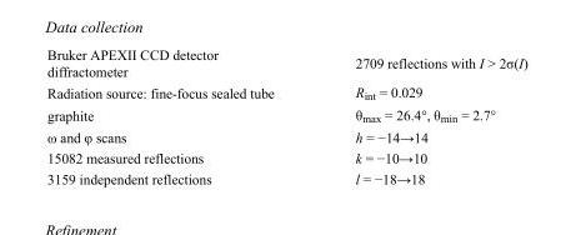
<table><tbody><tr><td>Bruker APEXII CCD detector diffractometer</td><td>2709 reflections with I &gt; 2σ(I)</td></tr><tr><td>Radiation source: fine-focus sealed tube</td><td>R<sub>int</sub> = 0.029</td></tr><tr><td>graphite</td><td>θ<sub>max</sub> = 26.4°, θ<sub>min</sub> = 2.7°</td></tr><tr><td>ω and φ scans</td><td>h = −14→14</td></tr><tr><td>15082 measured reflections</td><td>k = −10→10</td></tr><tr><td>3159 independent reflections</td><td>l = −18→18</td></tr></tbody></table>